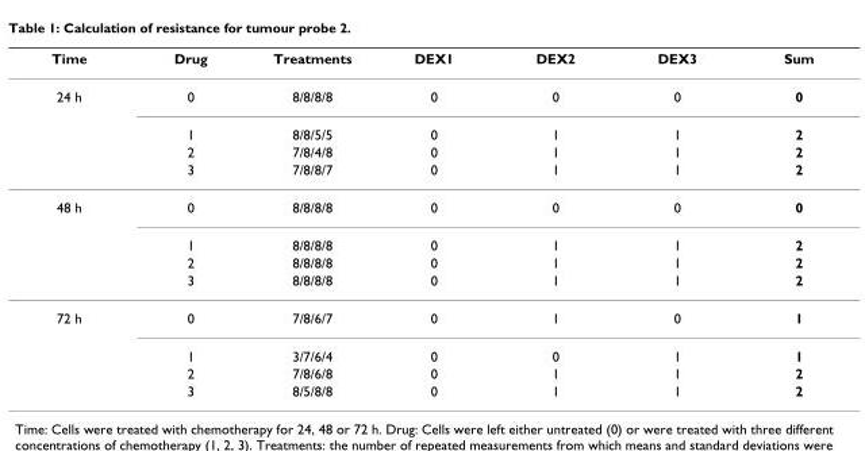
<table><thead><tr><td>Time</td><td>Drug</td><td>Treatments</td><td>DEX1</td><td>DEX2</td><td>DEX3</td><td>Sum</td></tr></thead><tbody><tr><td rowspan="4">24 h</td><td>0</td><td>8/8/8/8</td><td>0</td><td>0</td><td>0</td><td>0</td></tr><tr><td>1</td><td>8/8/5/5</td><td>0</td><td>1</td><td>1</td><td>2</td></tr><tr><td>2</td><td>7/8/4/8</td><td>0</td><td>1</td><td>1</td><td>2</td></tr><tr><td>3</td><td>7/8/8/7</td><td>0</td><td>1</td><td>1</td><td>2</td></tr><tr><td rowspan="4">48 h</td><td>0</td><td>8/8/8/8</td><td>0</td><td>0</td><td>0</td><td>0</td></tr><tr><td>1</td><td>8/8/8/8</td><td>0</td><td>1</td><td>1</td><td>2</td></tr><tr><td>2</td><td>8/8/8/8</td><td>0</td><td>1</td><td>1</td><td>2</td></tr><tr><td>3</td><td>8/8/8/8</td><td>0</td><td>1</td><td>1</td><td>2</td></tr><tr><td rowspan="4">72 h</td><td>0</td><td>7/8/6/7</td><td>0</td><td>1</td><td>0</td><td>1</td></tr><tr><td>1</td><td>3/7/6/4</td><td>0</td><td>0</td><td>1</td><td>1</td></tr><tr><td>2</td><td>7/8/6/8</td><td>0</td><td>1</td><td>1</td><td>2</td></tr><tr><td>3</td><td>8/5/8/8</td><td>0</td><td>1</td><td>1</td><td>2</td></tr></tbody></table>